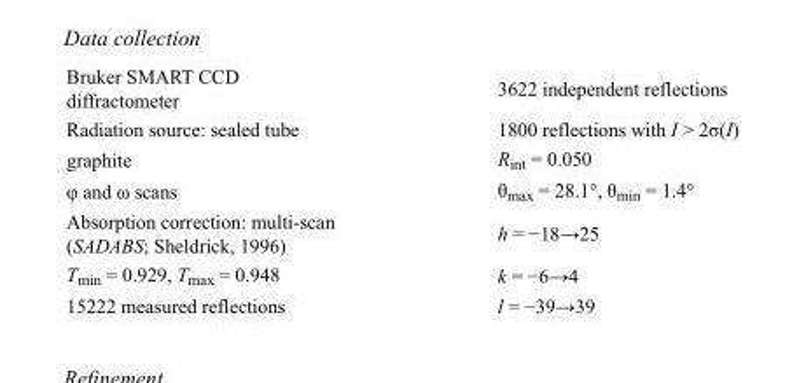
<table><tbody><tr><td>Bruker SMART CCD diffractometer</td><td>3622 independent reflections</td></tr><tr><td>Radiation source: sealed tube</td><td>1800 reflections with I &gt; 2σ(I)</td></tr><tr><td>graphite</td><td>R<sub>int</sub> = 0.050</td></tr><tr><td>φ and ω scans</td><td>θ<sub>max</sub> = 28.1°, θ<sub>min</sub> = 1.4°</td></tr><tr><td>Absorption correction: multi-scan (SADABS; Sheldrick, 1996)</td><td>h = −18→25</td></tr><tr><td>T<sub>min</sub> = 0.929, T<sub>max</sub> = 0.948</td><td>k = −6→4</td></tr><tr><td>15222 measured reflections</td><td>l = −39→39</td></tr></tbody></table>